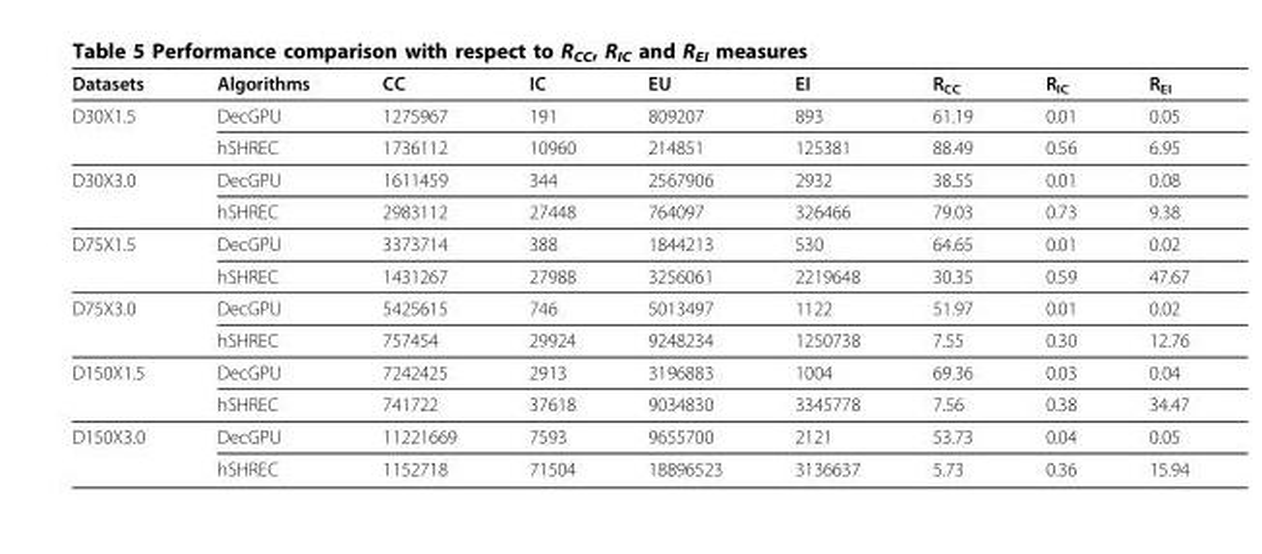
<table><thead><tr><td>Datasets</td><td>Algorithms</td><td>CC</td><td>IC</td><td>EU</td><td>EI</td><td>R<sub>CC</sub></td><td>R<sub>IC</sub></td><td>R<sub>EI</sub></td></tr></thead><tbody><tr><td rowspan="2">D30X1.5</td><td>DecGPU</td><td>1275967</td><td>191</td><td>809207</td><td>893</td><td>61.19</td><td>0.01</td><td>0.05</td></tr><tr><td>hSHREC</td><td>1736112</td><td>10960</td><td>214851</td><td>125381</td><td>88.49</td><td>0.56</td><td>6.95</td></tr><tr><td rowspan="2">D30X3.0</td><td>DecGPU</td><td>1611459</td><td>344</td><td>2567906</td><td>2932</td><td>38.55</td><td>0.01</td><td>0.08</td></tr><tr><td>hSHREC</td><td>2983112</td><td>27448</td><td>764097</td><td>326466</td><td>79.03</td><td>0.73</td><td>9.38</td></tr><tr><td rowspan="2">D75X1.5</td><td>DecGPU</td><td>3373714</td><td>388</td><td>1844213</td><td>530</td><td>64.65</td><td>0.01</td><td>0.02</td></tr><tr><td>hSHREC</td><td>1431267</td><td>27988</td><td>3256061</td><td>2219648</td><td>30.35</td><td>0.59</td><td>47.67</td></tr><tr><td rowspan="2">D75X3.0</td><td>DecGPU</td><td>5425615</td><td>746</td><td>5013497</td><td>1122</td><td>51.97</td><td>0.01</td><td>0.02</td></tr><tr><td>hSHREC</td><td>757454</td><td>29924</td><td>9248234</td><td>1250738</td><td>7.55</td><td>0.30</td><td>12.76</td></tr><tr><td rowspan="2">D150X1.5</td><td>DecGPU</td><td>7242425</td><td>2913</td><td>3196883</td><td>1004</td><td>69.36</td><td>0.03</td><td>0.04</td></tr><tr><td>hSHREC</td><td>741722</td><td>37618</td><td>9034830</td><td>3345778</td><td>7.56</td><td>0.38</td><td>34.47</td></tr><tr><td rowspan="2">D150X3.0</td><td>DecGPU</td><td>11221669</td><td>7593</td><td>9655700</td><td>2121</td><td>53.73</td><td>0.04</td><td>0.05</td></tr><tr><td>hSHREC</td><td>1152718</td><td>71504</td><td>18896523</td><td>3136637</td><td>5.73</td><td>0.36</td><td>15.94</td></tr></tbody></table>